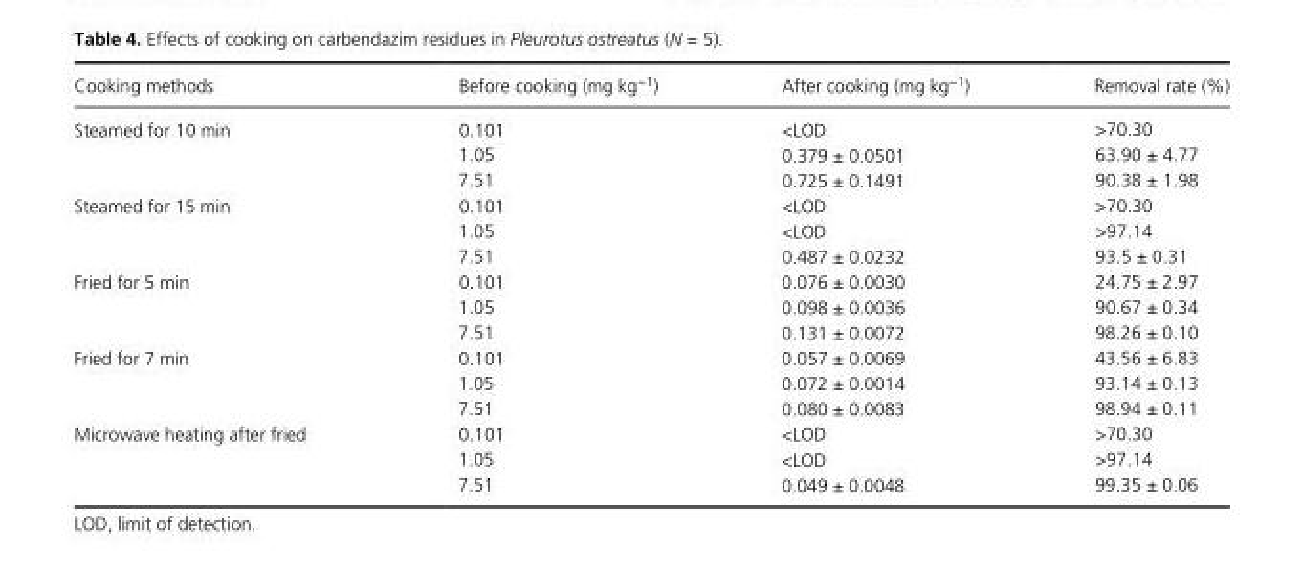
<table><thead><tr><td>Cooking methods</td><td>Before cooking (mg kg<sup>−1</sup>)</td><td>After cooking (mg kg<sup>−1</sup>)</td><td>Removal rate (%)</td></tr></thead><tbody><tr><td rowspan="3">Steamed for 10 min</td><td>0.101</td><td>&lt;LOD</td><td>&gt;70.30</td></tr><tr><td>1.05</td><td>0.379 ± 0.0501</td><td>63.90 ± 4.77</td></tr><tr><td>7.51</td><td>0.725 ± 0.1491</td><td>90.38 ± 1.98</td></tr><tr><td rowspan="3">Steamed for 15 min</td><td>0.101</td><td>&lt;LOD</td><td>&gt;70.30</td></tr><tr><td>1.05</td><td>&lt;LOD</td><td>&gt;97.14</td></tr><tr><td>7.51</td><td>0.487 ± 0.0232</td><td>93.5 ± 0.31</td></tr><tr><td rowspan="3">Fried for 5 min</td><td>0.101</td><td>0.076 ± 0.0030</td><td>24.75 ± 2.97</td></tr><tr><td>1.05</td><td>0.098 ± 0.0036</td><td>90.67 ± 0.34</td></tr><tr><td>7.51</td><td>0.131 ± 0.0072</td><td>98.26 ± 0.10</td></tr><tr><td rowspan="3">Fried for 7 min</td><td>0.101</td><td>0.057 ± 0.0069</td><td>43.56 ± 6.83</td></tr><tr><td>1.05</td><td>0.072 ± 0.0014</td><td>93.14 ± 0.13</td></tr><tr><td>7.51</td><td>0.080 ± 0.0083</td><td>98.94 ± 0.11</td></tr><tr><td rowspan="3">Microwave heating after fried</td><td>0.101</td><td>&lt;LOD</td><td>&gt;70.30</td></tr><tr><td>1.05</td><td>&lt;LOD</td><td>&gt;97.14</td></tr><tr><td>7.51</td><td>0.049 ± 0.0048</td><td>99.35 ± 0.06</td></tr></tbody></table>